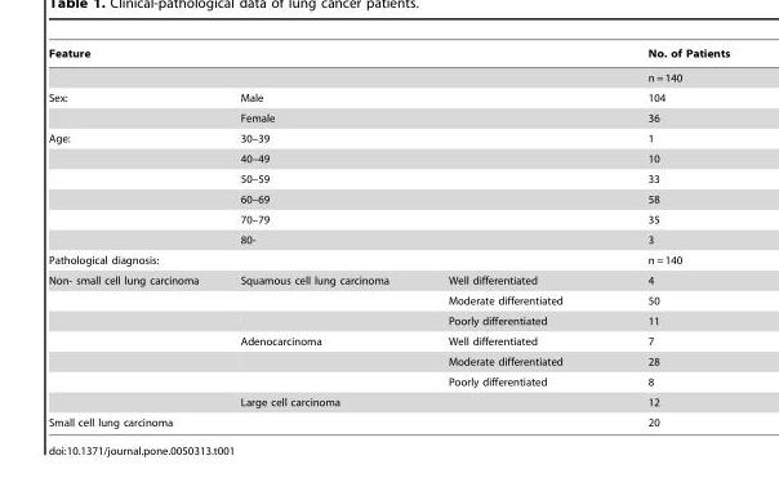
<table><thead><tr><td colspan="3">Feature</td><td>No. of Patients</td></tr></thead><tbody><tr><td colspan="3"></td><td>n = 140</td></tr><tr><td rowspan="2">Sex:</td><td colspan="2">Male</td><td>104</td></tr><tr><td colspan="2">Female</td><td>36</td></tr><tr><td rowspan="6">Age:</td><td colspan="2">30–39</td><td>1</td></tr><tr><td colspan="2">40–49</td><td>10</td></tr><tr><td colspan="2">50–59</td><td>33</td></tr><tr><td colspan="2">60–69</td><td>58</td></tr><tr><td colspan="2">70–79</td><td>35</td></tr><tr><td colspan="2">80-</td><td>3</td></tr><tr><td colspan="3">Pathological diagnosis:</td><td>n = 140</td></tr><tr><td rowspan="7">Non- small cell lung carcinoma</td><td>Squamous cell lung carcinoma</td><td>Well differentiated</td><td>4</td></tr><tr><td></td><td>Moderate differentiated</td><td>50</td></tr><tr><td></td><td>Poorly differentiated</td><td>11</td></tr><tr><td>Adenocarcinoma</td><td>Well differentiated</td><td>7</td></tr><tr><td></td><td>Moderate differentiated</td><td>28</td></tr><tr><td></td><td>Poorly differentiated</td><td>8</td></tr><tr><td colspan="2">Large cell carcinoma</td><td>12</td></tr><tr><td colspan="3">Small cell lung carcinoma</td><td>20</td></tr></tbody></table>